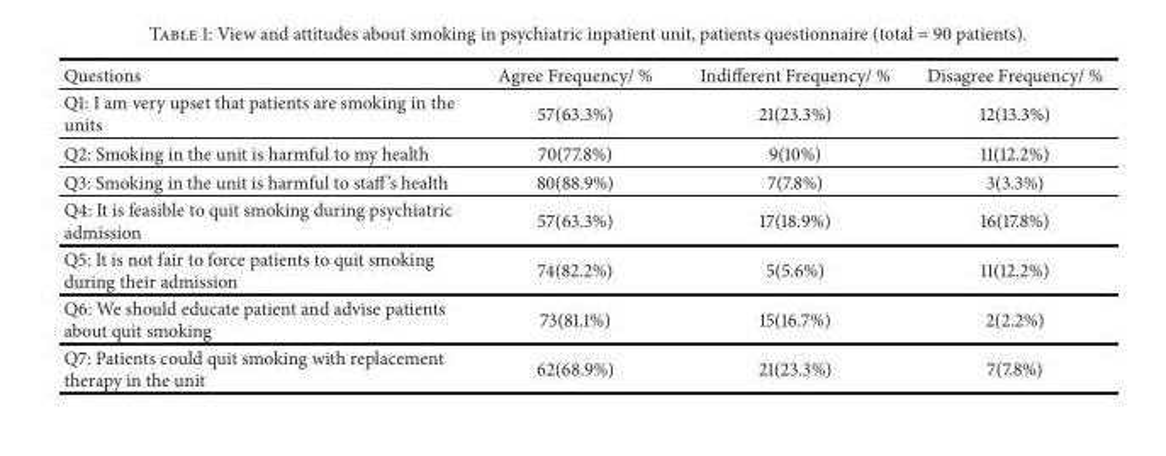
<table><thead><tr><td>Questions</td><td>Agree Frequency/ %</td><td>Indifferent Frequency/ %</td><td>Disagree Frequency/ %</td></tr></thead><tbody><tr><td>Q1: I am very upset that patients are smoking in the units</td><td>57(63.3%)</td><td>21(23.3%)</td><td>12(13.3%)</td></tr><tr><td>Q2: Smoking in the unit is harmful to my health</td><td>70(77.8%)</td><td>9(10%)</td><td>11(12.2%)</td></tr><tr><td>Q3: Smoking in the unit is harmful to staff’s health</td><td>80(88.9%)</td><td>7(7.8%)</td><td>3(3.3%)</td></tr><tr><td>Q4: It is feasible to quit smoking during psychiatric admission</td><td>57(63.3%)</td><td>17(18.9%)</td><td>16(17.8%)</td></tr><tr><td>Q5: It is not fair to force patients to quit smoking during their admission</td><td>74(82.2%)</td><td>5(5.6%)</td><td>11(12.2%)</td></tr><tr><td>Q6: We should educate patient and advise patients about quit smoking</td><td>73(81.1%)</td><td>15(16.7%)</td><td>2(2.2%)</td></tr><tr><td>Q7: Patients could quit smoking with replacement therapy in the unit</td><td>62(68.9%)</td><td>21(23.3%)</td><td>7(7.8%)</td></tr></tbody></table>